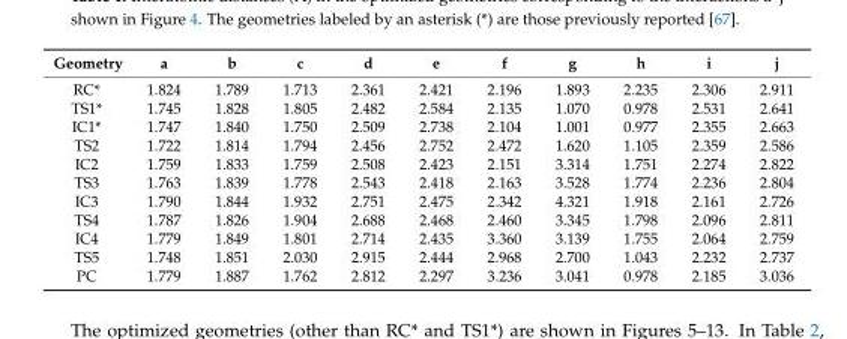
<table><thead><tr><td>Geometry</td><td>a</td><td>b</td><td>c</td><td>d</td><td>e</td><td>f</td><td>g</td><td>h</td><td>i</td><td>j</td></tr></thead><tbody><tr><td>RC*</td><td>1.824</td><td>1.789</td><td>1.713</td><td>2.361</td><td>2.421</td><td>2.196</td><td>1.893</td><td>2.235</td><td>2.306</td><td>2.911</td></tr><tr><td>TS1*</td><td>1.745</td><td>1.828</td><td>1.805</td><td>2.482</td><td>2.584</td><td>2.135</td><td>1.070</td><td>0.978</td><td>2.531</td><td>2.641</td></tr><tr><td>IC1*</td><td>1.747</td><td>1.840</td><td>1.750</td><td>2.509</td><td>2.738</td><td>2.104</td><td>1.001</td><td>0.977</td><td>2.355</td><td>2.663</td></tr><tr><td>TS2</td><td>1.722</td><td>1.814</td><td>1.794</td><td>2.456</td><td>2.752</td><td>2.472</td><td>1.620</td><td>1.105</td><td>2.359</td><td>2.586</td></tr><tr><td>IC2</td><td>1.759</td><td>1.833</td><td>1.759</td><td>2.508</td><td>2.423</td><td>2.151</td><td>3.314</td><td>1.751</td><td>2.274</td><td>2.822</td></tr><tr><td>TS3</td><td>1.763</td><td>1.839</td><td>1.778</td><td>2.543</td><td>2.418</td><td>2.163</td><td>3.528</td><td>1.774</td><td>2.236</td><td>2.804</td></tr><tr><td>IC3</td><td>1.790</td><td>1.844</td><td>1.932</td><td>2.751</td><td>2.475</td><td>2.342</td><td>4.321</td><td>1.918</td><td>2.161</td><td>2.726</td></tr><tr><td>TS4</td><td>1.787</td><td>1.826</td><td>1.904</td><td>2.688</td><td>2.468</td><td>2.460</td><td>3.345</td><td>1.798</td><td>2.096</td><td>2.811</td></tr><tr><td>IC4</td><td>1.779</td><td>1.849</td><td>1.801</td><td>2.714</td><td>2.435</td><td>3.360</td><td>3.139</td><td>1.755</td><td>2.064</td><td>2.759</td></tr><tr><td>TS5</td><td>1.748</td><td>1.851</td><td>2.030</td><td>2.915</td><td>2.444</td><td>2.968</td><td>2.700</td><td>1.043</td><td>2.232</td><td>2.737</td></tr><tr><td>PC</td><td>1.779</td><td>1.887</td><td>1.762</td><td>2.812</td><td>2.297</td><td>3.236</td><td>3.041</td><td>0.978</td><td>2.185</td><td>3.036</td></tr></tbody></table>